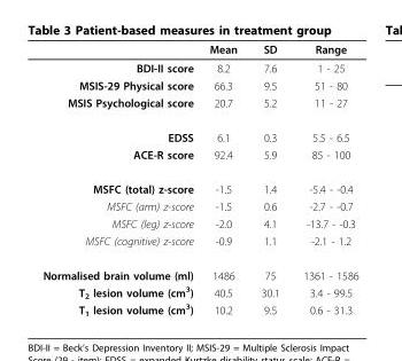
<table><thead><tr><td></td><td>Mean</td><td>SD</td><td>Range</td></tr></thead><tbody><tr><td>BDI-II score</td><td>8.2</td><td>7.6</td><td>1 - 25</td></tr><tr><td>MSIS-29 Physical score</td><td>66.3</td><td>9.5</td><td>51 - 80</td></tr><tr><td>MSIS Psychological score</td><td>20.7</td><td>5.2</td><td>11 - 27</td></tr><tr><td>EDSS</td><td>6.1</td><td>0.3</td><td>5.5 - 6.5</td></tr><tr><td>ACE-R score</td><td>92.4</td><td>5.9</td><td>85 - 100</td></tr><tr><td>MSFC (total) z-score</td><td>-1.5</td><td>1.4</td><td>-5.4 - -0.4</td></tr><tr><td>MSFC (arm) z-score</td><td>-1.5</td><td>0.6</td><td>-2.7 - -0.7</td></tr><tr><td>MSFC (leg) z-score</td><td>-2.0</td><td>4.1</td><td>-13.7 - -0.3</td></tr><tr><td>MSFC (cognitive) z-score</td><td>-0.9</td><td>1.1</td><td>-2.1 - 1.2</td></tr><tr><td>Normalised brain volume (ml)</td><td>1486</td><td>75</td><td>1361 - 1586</td></tr><tr><td>T<sub>2</sub> lesion volume (cm<sup>3</sup>)</td><td>40.5</td><td>30.1</td><td>3.4 - 99.5</td></tr><tr><td>T<sub>1</sub> lesion volume (cm<sup>3</sup>)</td><td>10.2</td><td>9.5</td><td>0.6 - 31.3</td></tr></tbody></table>